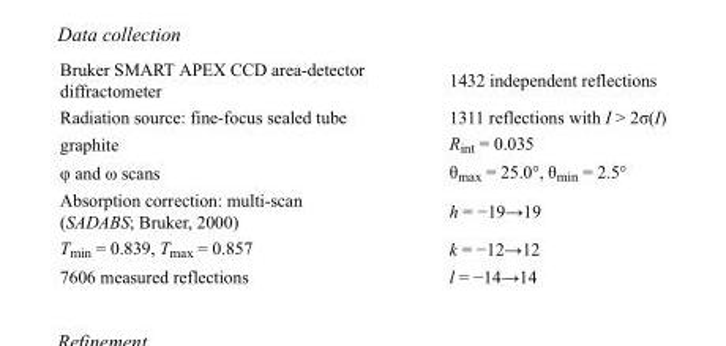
<table><tbody><tr><td>Bruker SMART APEX CCD area-detector diffractometer</td><td>1432 independent reflections</td></tr><tr><td>Radiation source: fine-focus sealed tube</td><td>1311 reflections with I &gt; 2σ(I)</td></tr><tr><td>graphite</td><td>R<sub>int</sub> = 0.035</td></tr><tr><td>φ and ω scans</td><td>θ<sub>max</sub> = 25.0°, θ<sub>min</sub> = 2.5°</td></tr><tr><td>Absorption correction: multi-scan (SADABS; Bruker, 2000)</td><td>h = −19→19</td></tr><tr><td>T<sub>min</sub> = 0.839, T<sub>max</sub> = 0.857</td><td>k = −12→12</td></tr><tr><td>7606 measured reflections</td><td>l = −14→14</td></tr></tbody></table>